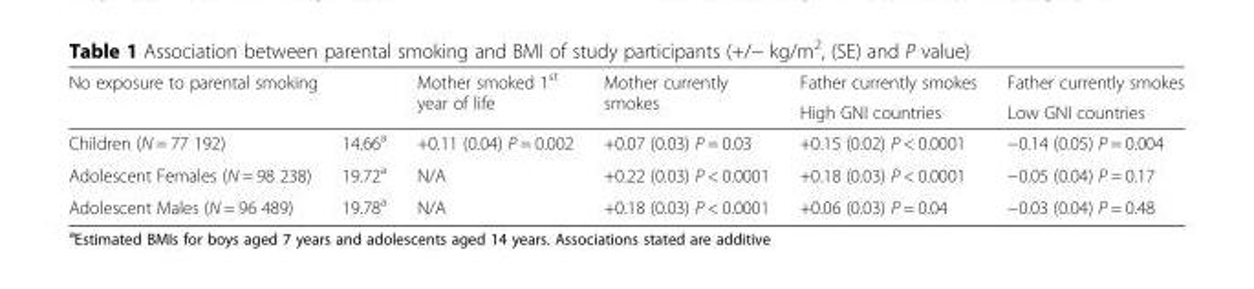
<table><thead><tr><td rowspan="2" colspan="2">No exposure to parental smoking</td><td rowspan="3">Mother smoked 1<sup>st</sup> year of life +0.11 (0.04) P = 0.002</td><td rowspan="3">Mother currently smokes +0.07 (0.03) P = 0.03</td><td rowspan="3">Father currently smokes High GNI countries +0.15 (0.02) P &lt; 0.0001</td><td rowspan="3">Father currently smokes Low GNI countries −0.14 (0.05) P = 0.004</td></tr><tr></tr><tr><td>Children (N = 77 192)</td><td>14.66<sup>a</sup></td></tr></thead><tbody><tr><td>Adolescent Females (N = 98 238)</td><td>19.72<sup>a</sup></td><td>N/A</td><td>+0.22 (0.03) P &lt; 0.0001</td><td>+0.18 (0.03) P &lt; 0.0001</td><td>−0.05 (0.04) P = 0.17</td></tr><tr><td>Adolescent Males (N = 96 489)</td><td>19.78<sup>a</sup></td><td>N/A</td><td>+0.18 (0.03) P &lt; 0.0001</td><td>+0.06 (0.03) P = 0.04</td><td>−0.03 (0.04) P = 0.48</td></tr></tbody></table>